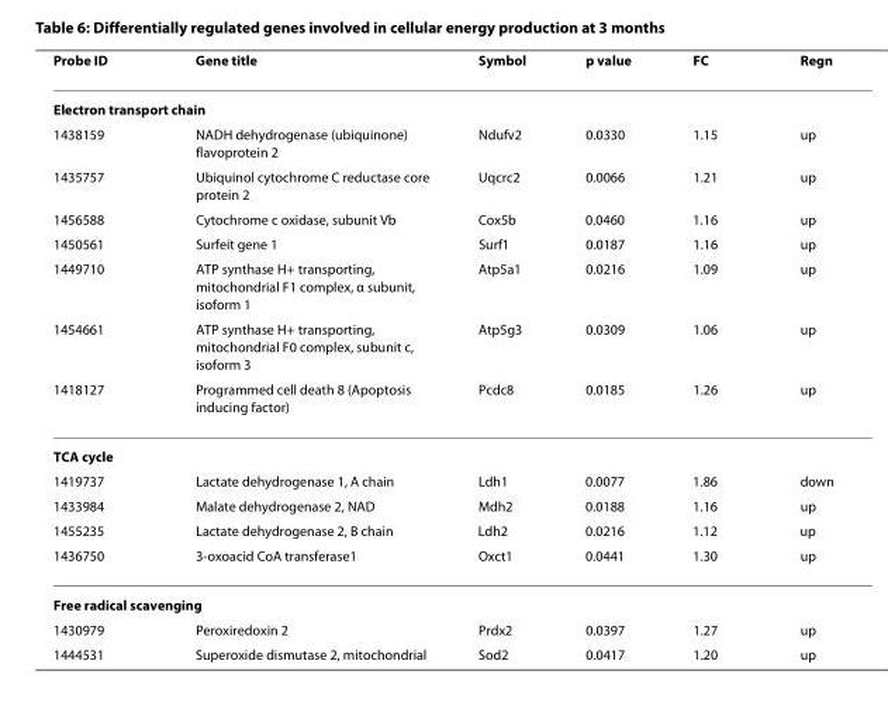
<table><thead><tr><td>Probe ID</td><td>Gene title</td><td>Symbol</td><td>p value</td><td>FC</td><td>Regn</td></tr></thead><tbody><tr><td colspan="6">Electron transport chain</td></tr><tr><td>1438159</td><td>NADH dehydrogenase (ubiquinone) flavoprotein 2</td><td>Ndufv2</td><td>0.0330</td><td>1.15</td><td>up</td></tr><tr><td>1435757</td><td>Ubiquinol cytochrome C reductase core protein 2</td><td>Uqcrc2</td><td>0.0066</td><td>1.21</td><td>up</td></tr><tr><td>1456588</td><td>Cytochrome c oxidase, subunit Vb</td><td>Cox5b</td><td>0.0460</td><td>1.16</td><td>up</td></tr><tr><td>1450561</td><td>Surfeit gene 1</td><td>Surf1</td><td>0.0187</td><td>1.16</td><td>up</td></tr><tr><td>1449710</td><td>ATP synthase H+ transporting, mitochondrial F1 complex, α subunit, isoform 1</td><td>Atp5a1</td><td>0.0216</td><td>1.09</td><td>up</td></tr><tr><td>1454661</td><td>ATP synthase H+ transporting, mitochondrial F0 complex, subunit c, isoform 3</td><td>Atp5g3</td><td>0.0309</td><td>1.06</td><td>up</td></tr><tr><td>1418127</td><td>Programmed cell death 8 (Apoptosis inducing factor)</td><td>Pcdc8</td><td>0.0185</td><td>1.26</td><td>up</td></tr><tr><td colspan="6">TCA cycle</td></tr><tr><td>1419737</td><td>Lactate dehydrogenase 1, A chain</td><td>Ldh1</td><td>0.0077</td><td>1.86</td><td>down</td></tr><tr><td>1433984</td><td>Malate dehydrogenase 2, NAD</td><td>Mdh2</td><td>0.0188</td><td>1.16</td><td>up</td></tr><tr><td>1455235</td><td>Lactate dehydrogenase 2, B chain</td><td>Ldh2</td><td>0.0216</td><td>1.12</td><td>up</td></tr><tr><td>1436750</td><td>3-oxoacid CoA transferase1</td><td>Oxct1</td><td>0.0441</td><td>1.30</td><td>up</td></tr><tr><td colspan="6">Free radical scavenging</td></tr><tr><td>1430979</td><td>Peroxiredoxin 2</td><td>Prdx2</td><td>0.0397</td><td>1.27</td><td>up</td></tr><tr><td>1444531</td><td>Superoxide dismutase 2, mitochondrial</td><td>Sod2</td><td>0.0417</td><td>1.20</td><td>up</td></tr></tbody></table>